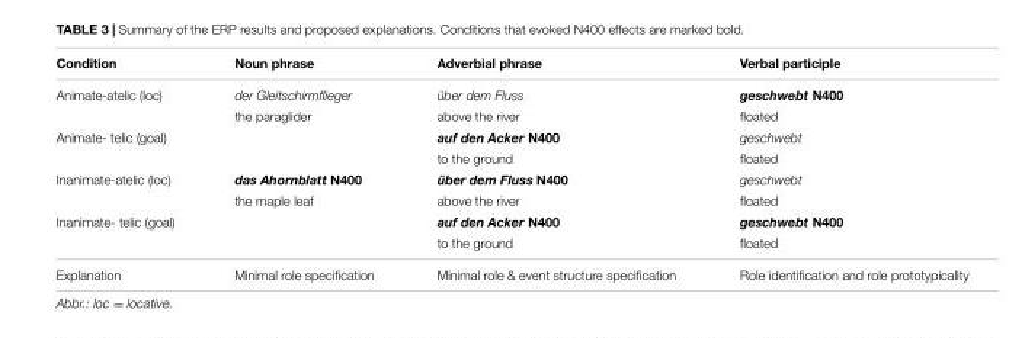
<table><thead><tr><td>Condition</td><td>Noun phrase</td><td>Adverbial phrase</td><td>Verbal participle</td></tr></thead><tbody><tr><td rowspan="2">Animate-atelic (loc)</td><td>der Gleitschirmflieger</td><td>über dem Fluss</td><td>geschwebt N400</td></tr><tr><td>the paraglider</td><td>above the river</td><td>floated</td></tr><tr><td rowspan="2">Animate- telic (goal)</td><td></td><td>auf den Acker N400</td><td>geschwebt</td></tr><tr><td></td><td>to the ground</td><td>floated</td></tr><tr><td rowspan="2">Inanimate-atelic (loc)</td><td>das Ahornblatt N400</td><td>über dem Fluss N400</td><td>geschwebt</td></tr><tr><td>the maple leaf</td><td>above the river</td><td>floated</td></tr><tr><td rowspan="2">Inanimate- telic (goal)</td><td></td><td>auf den Acker N400</td><td>geschwebt N400</td></tr><tr><td></td><td>to the ground</td><td>floated</td></tr><tr><td>Explanation</td><td>Minimal role specification</td><td>Minimal role &amp; event structure specification</td><td>Role identification and role prototypicality</td></tr></tbody></table>